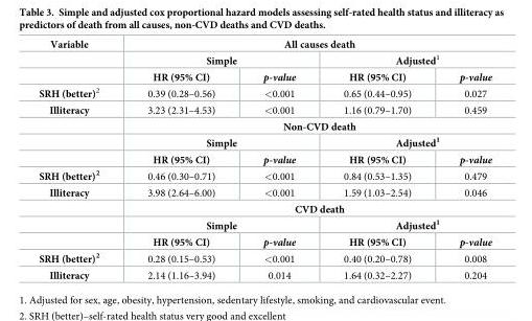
<table><tbody><tr><td rowspan="3">Variable</td><td colspan="4">All causes death</td></tr><tr><td colspan="2">Simple</td><td colspan="2">Adjusted<sup>1</sup></td></tr><tr><td>HR (95% CI)</td><td>p-value</td><td>HR (95% CI)</td><td>p-value</td></tr><tr><td>SRH (better)<sup>2</sup></td><td>0.39 (0.28–0.56)</td><td>&lt;0.001</td><td>0.65 (0.44–0.95)</td><td>0.027</td></tr><tr><td rowspan="4">Illiteracy</td><td>3.23 (2.31–4.53)</td><td>&lt;0.001</td><td>1.16 (0.79–1.70)</td><td>0.459</td></tr><tr><td colspan="4">Non-CVD death</td></tr><tr><td colspan="2">Simple</td><td colspan="2">Adjusted<sup>1</sup></td></tr><tr><td>HR (95% CI)</td><td>p-value</td><td>HR (95% CI)</td><td>p-value</td></tr><tr><td>SRH (better)<sup>2</sup></td><td>0.46 (0.30–0.71)</td><td>&lt;0.001</td><td>0.84 (0.53–1.35)</td><td>0.479</td></tr><tr><td rowspan="4">Illiteracy</td><td>3.98 (2.64–6.00)</td><td>&lt;0.001</td><td>1.59 (1.03–2.54)</td><td>0.046</td></tr><tr><td colspan="4">CVD death</td></tr><tr><td colspan="2">Simple</td><td colspan="2">Adjusted<sup>1</sup></td></tr><tr><td>HR (95% CI)</td><td>p-value</td><td>HR (95% CI)</td><td>p-value</td></tr><tr><td>SRH (better)<sup>2</sup></td><td>0.28 (0.15–0.53)</td><td>&lt;0.001</td><td>0.40 (0.20–0.78)</td><td>0.008</td></tr><tr><td>Illiteracy</td><td>2.14 (1.16–3.94)</td><td>0.014</td><td>1.64 (0.32–2.27)</td><td>0.204</td></tr></tbody></table>